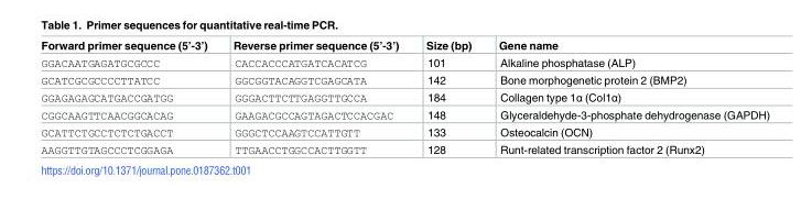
<table><thead><tr><td>Forward primer sequence (5’-3’)</td><td>Reverse primer sequence (5’-3’)</td><td>Size (bp)</td><td>Gene name</td></tr></thead><tbody><tr><td>GGACAATGAGATGCGCCC</td><td>CACCACCCATGATCACATCG</td><td>101</td><td>Alkaline phosphatase (ALP)</td></tr><tr><td>GCATCGCGCCCCTTATCC</td><td>GGCGGTACAGGTCGAGCATA</td><td>142</td><td>Bone morphogenetic protein 2 (BMP2)</td></tr><tr><td>GGAGAGAGCATGACCGATGG</td><td>GGGACTTCTTGAGGTTGCCA</td><td>184</td><td>Collagen type 1α (Col1α)</td></tr><tr><td>CGGCAAGTTCAACGGCACAG</td><td>GAAGACGCCAGTAGACTCCACGAC</td><td>148</td><td>Glyceraldehyde-3-phosphate dehydrogenase (GAPDH)</td></tr><tr><td>GCATTCTGCCTCTCTGACCT</td><td>GGGCTCCAAGTCCATTGTT</td><td>133</td><td>Osteocalcin (OCN)</td></tr><tr><td>AAGGTTGTAGCCCTCGGAGA</td><td>TTGAACCTGGCCACTTGGTT</td><td>128</td><td>Runt-related transcription factor 2 (Runx2)</td></tr></tbody></table>